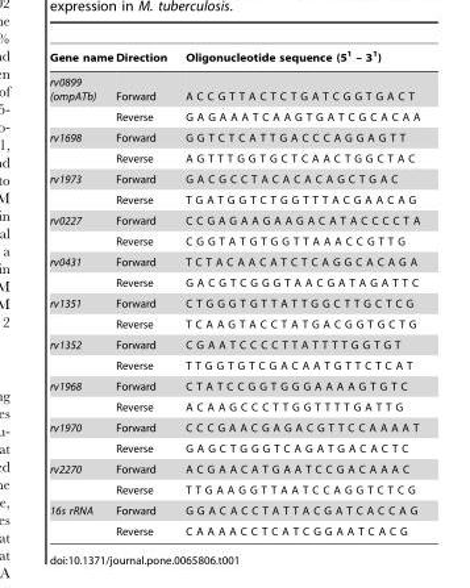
<table><thead><tr><td>Gene name</td><td>Direction</td><td>Oligonucleotide sequence (5<sup>1</sup> – 3<sup>1</sup>)</td></tr></thead><tbody><tr><td rowspan="2">rv0899 (ompATb)</td><td>Forward</td><td>A C C G T T A C T C T G A T C G G T G A C T</td></tr><tr><td>Reverse</td><td>G A G A A A T C A A G T G A T C G C A C A A</td></tr><tr><td rowspan="2">rv1698</td><td>Forward</td><td>G G T C T C A T T G A C C C A G G A G T T</td></tr><tr><td>Reverse</td><td>A G T T T G G T G C T C A A C T G G C T A C</td></tr><tr><td rowspan="2">rv1973</td><td>Forward</td><td>G A C G C C T A C A C A C A G C T G A C</td></tr><tr><td>Reverse</td><td>T G A T G G T C T G G T T T A C G A A C A G</td></tr><tr><td rowspan="2">rv0227</td><td>Forward</td><td>C C G A G A A G A A G A C A T A C C C C T A</td></tr><tr><td>Reverse</td><td>C G G T A T G T G G T T A A A C C G T T G</td></tr><tr><td rowspan="2">rv0431</td><td>Forward</td><td>T C T A C A A C A T C T C A G G C A C A G A</td></tr><tr><td>Reverse</td><td>G A C G T C G G G T A A C G A T A G A T T C</td></tr><tr><td rowspan="2">rv1351</td><td>Forward</td><td>C T G G G T G T T A T T G G C T T G C T C G</td></tr><tr><td>Reverse</td><td>T C A A G T A C C T A T G A C G G T G C T G</td></tr><tr><td rowspan="2">rv1352</td><td>Forward</td><td>C G A A T C C C C T T A T T T T G G T G T</td></tr><tr><td>Reverse</td><td>T T G G T G T C G A C A A T G T T C T C A T</td></tr><tr><td rowspan="2">rv1968</td><td>Forward</td><td>C T A T C C G G T G G G A A A A G T G T C</td></tr><tr><td>Reverse</td><td>A C A A G C C C T T G G T T T T G A T T G</td></tr><tr><td rowspan="2">rv1970</td><td>Forward</td><td>C C C G A A C G A G A C G T T C C A A A A T</td></tr><tr><td>Reverse</td><td>G A G C T G G G T C A G A T G A C A C T C</td></tr><tr><td rowspan="2">rv2270</td><td>Forward</td><td>A C G A A C A T G A A T C C G A C A A A C</td></tr><tr><td>Reverse</td><td>T T G A A G G T T A A T C C A G G T C T C G</td></tr><tr><td rowspan="2">16s rRNA</td><td>Forward</td><td>G G A C A C C T A T T A C G A T C A C C A G</td></tr><tr><td>Reverse</td><td>C A A A A C C T C A T C G G A A T C A C G</td></tr></tbody></table>